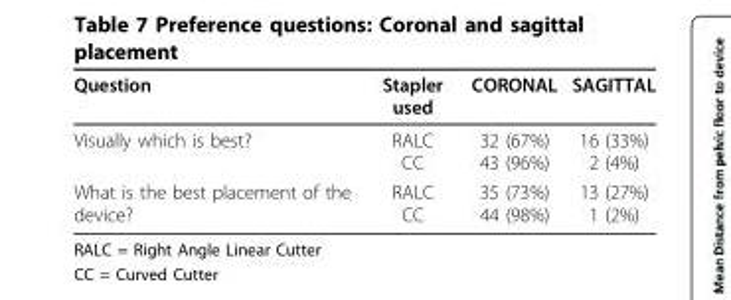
<table><thead><tr><td>Question</td><td>Stapler used</td><td>CORONAL</td><td>SAGITTAL</td></tr></thead><tbody><tr><td>Visually which is best?</td><td>RALC CC</td><td>32 (67%) 43 (96%)</td><td>16 (33%) 2 (4%)</td></tr><tr><td>What is the best placement of the device?</td><td>RALC CC</td><td>35 (73%) 44 (98%)</td><td>13 (27%) 1 (2%)</td></tr></tbody></table>